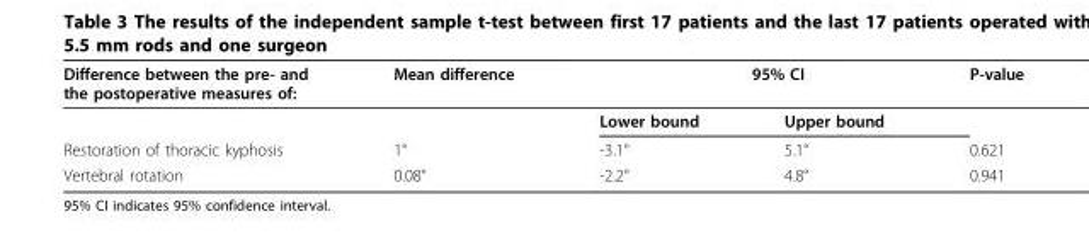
<table><thead><tr><td rowspan="2">Difference between the pre- and the postoperative measures of:</td><td rowspan="2">Mean difference</td><td colspan="2">95% CI</td><td rowspan="2">P-value</td></tr><tr><td>Lower bound</td><td>Upper bound</td></tr></thead><tbody><tr><td>Restoration of thoracic kyphosis</td><td>1°</td><td>-3.1°</td><td>5.1°</td><td>0.621</td></tr><tr><td>Vertebral rotation</td><td>0.08°</td><td>-2.2°</td><td>4.8°</td><td>0.941</td></tr></tbody></table>